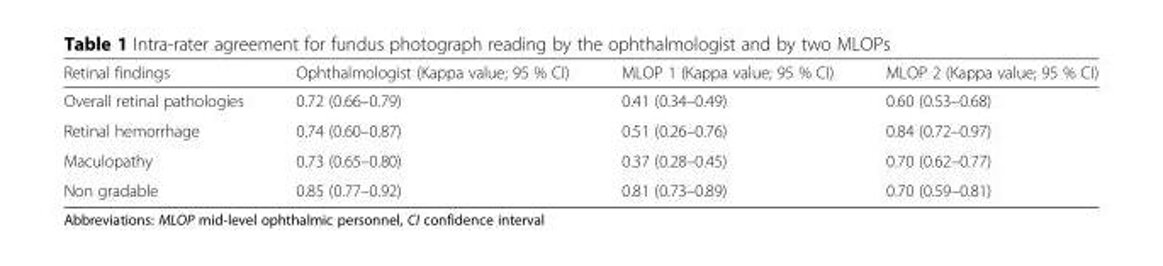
<table><thead><tr><td>Retinal findings</td><td>Ophthalmologist (Kappa value; 95 % CI)</td><td>MLOP 1 (Kappa value; 95 % CI)</td><td>MLOP 2 (Kappa value; 95 % CI)</td></tr></thead><tbody><tr><td>Overall retinal pathologies</td><td>0.72 (0.66–0.79)</td><td>0.41 (0.34–0.49)</td><td>0.60 (0.53–0.68)</td></tr><tr><td>Retinal hemorrhage</td><td>0.74 (0.60–0.87)</td><td>0.51 (0.26–0.76)</td><td>0.84 (0.72–0.97)</td></tr><tr><td>Maculopathy</td><td>0.73 (0.65–0.80)</td><td>0.37 (0.28–0.45)</td><td>0.70 (0.62–0.77)</td></tr><tr><td>Non gradable</td><td>0.85 (0.77–0.92)</td><td>0.81 (0.73–0.89)</td><td>0.70 (0.59–0.81)</td></tr></tbody></table>